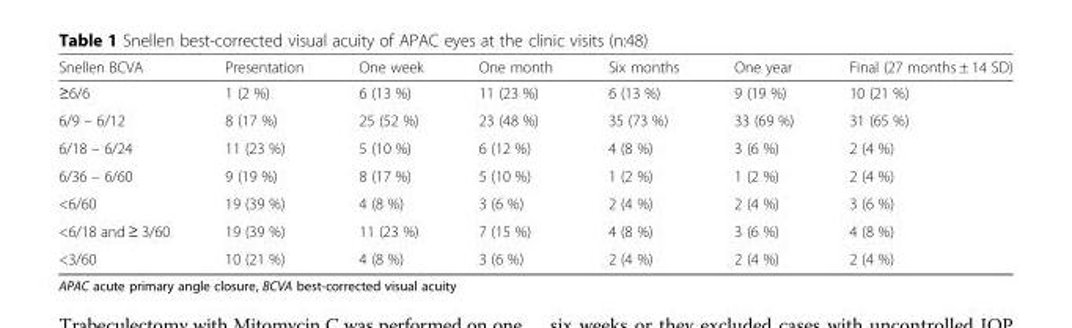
<table><thead><tr><td>Snellen BCVA</td><td>Presentation</td><td>One week</td><td>One month</td><td>Six months</td><td>One year</td><td>Final (27 months ± 14 SD)</td></tr></thead><tbody><tr><td>≥6/6</td><td>1 (2 %)</td><td>6 (13 %)</td><td>11 (23 %)</td><td>6 (13 %)</td><td>9 (19 %)</td><td>10 (21 %)</td></tr><tr><td>6/9 – 6/12</td><td>8 (17 %)</td><td>25 (52 %)</td><td>23 (48 %)</td><td>35 (73 %)</td><td>33 (69 %)</td><td>31 (65 %)</td></tr><tr><td>6/18 – 6/24</td><td>11 (23 %)</td><td>5 (10 %)</td><td>6 (12 %)</td><td>4 (8 %)</td><td>3 (6 %)</td><td>2 (4 %)</td></tr><tr><td>6/36 – 6/60</td><td>9 (19 %)</td><td>8 (17 %)</td><td>5 (10 %)</td><td>1 (2 %)</td><td>1 (2 %)</td><td>2 (4 %)</td></tr><tr><td>&lt;6/60</td><td>19 (39 %)</td><td>4 (8 %)</td><td>3 (6 %)</td><td>2 (4 %)</td><td>2 (4 %)</td><td>3 (6 %)</td></tr><tr><td>&lt;6/18 and ≥ 3/60</td><td>19 (39 %)</td><td>11 (23 %)</td><td>7 (15 %)</td><td>4 (8 %)</td><td>3 (6 %)</td><td>4 (8 %)</td></tr><tr><td>&lt;3/60</td><td>10 (21 %)</td><td>4 (8 %)</td><td>3 (6 %)</td><td>2 (4 %)</td><td>2 (4 %)</td><td>2 (4 %)</td></tr></tbody></table>